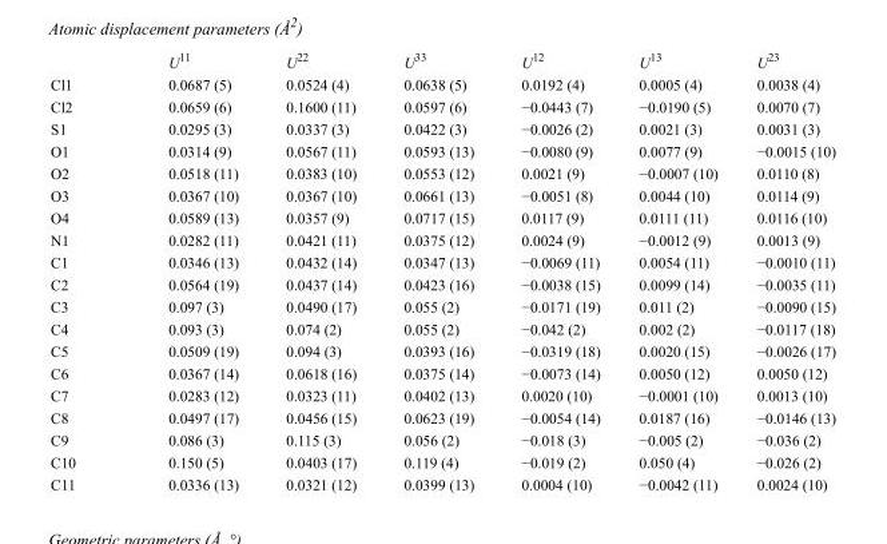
<table><thead><tr><td></td><td>U<sup>11</sup></td><td>U<sup>22</sup></td><td>U<sup>33</sup></td><td>U<sup>12</sup></td><td>U<sup>13</sup></td><td>U<sup>23</sup></td></tr></thead><tbody><tr><td>Cl1</td><td>0.0687 (5)</td><td>0.0524 (4)</td><td>0.0638 (5)</td><td>0.0192 (4)</td><td>0.0005 (4)</td><td>0.0038 (4)</td></tr><tr><td>Cl2</td><td>0.0659 (6)</td><td>0.1600 (11)</td><td>0.0597 (6)</td><td>−0.0443 (7)</td><td>−0.0190 (5)</td><td>0.0070 (7)</td></tr><tr><td>S1</td><td>0.0295 (3)</td><td>0.0337 (3)</td><td>0.0422 (3)</td><td>−0.0026 (2)</td><td>0.0021 (3)</td><td>0.0031 (3)</td></tr><tr><td>O1</td><td>0.0314 (9)</td><td>0.0567 (11)</td><td>0.0593 (13)</td><td>−0.0080 (9)</td><td>0.0077 (9)</td><td>−0.0015 (10)</td></tr><tr><td>O2</td><td>0.0518 (11)</td><td>0.0383 (10)</td><td>0.0553 (12)</td><td>0.0021 (9)</td><td>−0.0007 (10)</td><td>0.0110 (8)</td></tr><tr><td>O3</td><td>0.0367 (10)</td><td>0.0367 (10)</td><td>0.0661 (13)</td><td>−0.0051 (8)</td><td>0.0044 (10)</td><td>0.0114 (9)</td></tr><tr><td>O4</td><td>0.0589 (13)</td><td>0.0357 (9)</td><td>0.0717 (15)</td><td>0.0117 (9)</td><td>0.0111 (11)</td><td>0.0116 (10)</td></tr><tr><td>N1</td><td>0.0282 (11)</td><td>0.0421 (11)</td><td>0.0375 (12)</td><td>0.0024 (9)</td><td>−0.0012 (9)</td><td>0.0013 (9)</td></tr><tr><td>C1</td><td>0.0346 (13)</td><td>0.0432 (14)</td><td>0.0347 (13)</td><td>−0.0069 (11)</td><td>0.0054 (11)</td><td>−0.0010 (11)</td></tr><tr><td>C2</td><td>0.0564 (19)</td><td>0.0437 (14)</td><td>0.0423 (16)</td><td>−0.0038 (15)</td><td>0.0099 (14)</td><td>−0.0035 (11)</td></tr><tr><td>C3</td><td>0.097 (3)</td><td>0.0490 (17)</td><td>0.055 (2)</td><td>−0.0171 (19)</td><td>0.011 (2)</td><td>−0.0090 (15)</td></tr><tr><td>C4</td><td>0.093 (3)</td><td>0.074 (2)</td><td>0.055 (2)</td><td>−0.042 (2)</td><td>0.002 (2)</td><td>−0.0117 (18)</td></tr><tr><td>C5</td><td>0.0509 (19)</td><td>0.094 (3)</td><td>0.0393 (16)</td><td>−0.0319 (18)</td><td>0.0020 (15)</td><td>−0.0026 (17)</td></tr><tr><td>C6</td><td>0.0367 (14)</td><td>0.0618 (16)</td><td>0.0375 (14)</td><td>−0.0073 (14)</td><td>0.0050 (12)</td><td>0.0050 (12)</td></tr><tr><td>C7</td><td>0.0283 (12)</td><td>0.0323 (11)</td><td>0.0402 (13)</td><td>0.0020 (10)</td><td>−0.0001 (10)</td><td>0.0013 (10)</td></tr><tr><td>C8</td><td>0.0497 (17)</td><td>0.0456 (15)</td><td>0.0623 (19)</td><td>−0.0054 (14)</td><td>0.0187 (16)</td><td>−0.0146 (13)</td></tr><tr><td>C9</td><td>0.086 (3)</td><td>0.115 (3)</td><td>0.056 (2)</td><td>−0.018 (3)</td><td>−0.005 (2)</td><td>−0.036 (2)</td></tr><tr><td>C10</td><td>0.150 (5)</td><td>0.0403 (17)</td><td>0.119 (4)</td><td>−0.019 (2)</td><td>0.050 (4)</td><td>−0.026 (2)</td></tr><tr><td>C11</td><td>0.0336 (13)</td><td>0.0321 (12)</td><td>0.0399 (13)</td><td>0.0004 (10)</td><td>−0.0042 (11)</td><td>0.0024 (10)</td></tr></tbody></table>